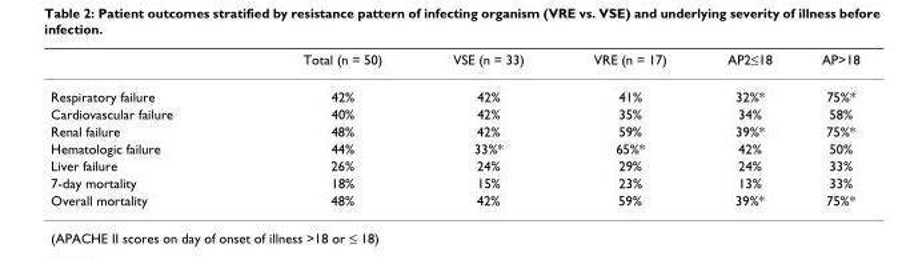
<table><thead><tr><td></td><td>Total (n = 50)</td><td>VSE (n = 33)</td><td>VRE (n = 17)</td><td>AP2≤18</td><td>AP&gt;18</td></tr></thead><tbody><tr><td>Respiratory failure</td><td>42%</td><td>42%</td><td>41%</td><td>32%*</td><td>75%*</td></tr><tr><td>Cardiovascular failure</td><td>40%</td><td>42%</td><td>35%</td><td>34%</td><td>58%</td></tr><tr><td>Renal failure</td><td>48%</td><td>42%</td><td>59%</td><td>39%*</td><td>75%*</td></tr><tr><td>Hematologic failure</td><td>44%</td><td>33%*</td><td>65%*</td><td>42%</td><td>50%</td></tr><tr><td>Liver failure</td><td>26%</td><td>24%</td><td>29%</td><td>24%</td><td>33%</td></tr><tr><td>7-day mortality</td><td>18%</td><td>15%</td><td>23%</td><td>13%</td><td>33%</td></tr><tr><td>Overall mortality</td><td>48%</td><td>42%</td><td>59%</td><td>39%*</td><td>75%*</td></tr></tbody></table>